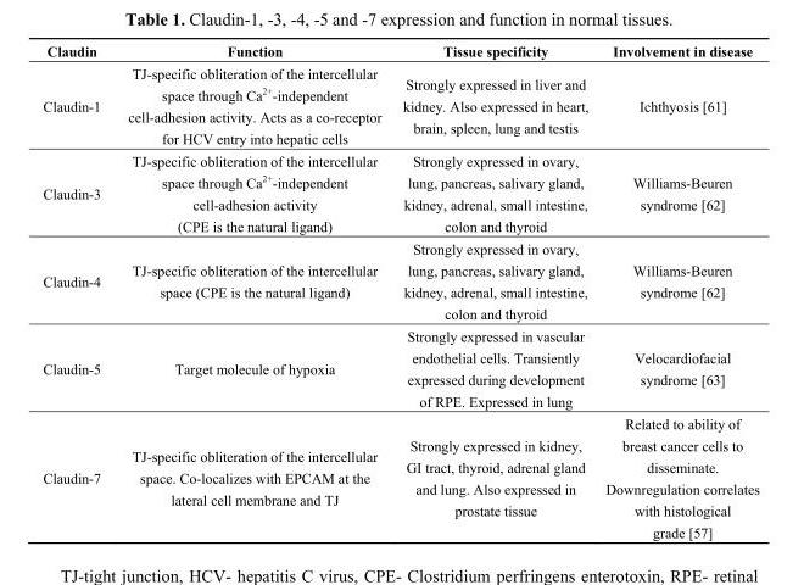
<table><thead><tr><td>Claudin</td><td>Function</td><td>Tissue specificity</td><td>Involvement in disease</td></tr></thead><tbody><tr><td>Claudin-1</td><td>TJ-specific obliteration of the intercellular space through Ca<sup>2+</sup>-independent cell-adhesion activity. Acts as a co-receptor for HCV entry into hepatic cells</td><td>Strongly expressed in liver and kidney. Also expressed in heart, brain, spleen, lung and testis</td><td>Ichthyosis [61]</td></tr><tr><td>Claudin-3</td><td>TJ-specific obliteration of the intercellular space through Ca<sup>2+</sup>-independent cell-adhesion activity (CPE is the natural ligand)</td><td>Strongly expressed in ovary, lung, pancreas, salivary gland, kidney, adrenal, small intestine, colon and thyroid</td><td>Williams-Beuren syndrome [62]</td></tr><tr><td>Claudin-4</td><td>TJ-specific obliteration of the intercellular space (CPE is the natural ligand)</td><td>Strongly expressed in ovary, lung, pancreas, salivary gland, kidney, adrenal, small intestine, colon and thyroid</td><td>Williams-Beuren syndrome [62]</td></tr><tr><td>Claudin-5</td><td>Target molecule of hypoxia</td><td>Strongly expressed in vascular endothelial cells. Transiently expressed during development of RPE. Expressed in lung</td><td>Velocardiofacial syndrome [63]</td></tr><tr><td>Claudin-7</td><td>TJ-specific obliteration of the intercellular space. Co-localizes with EPCAM at the lateral cell membrane and TJ</td><td>Strongly expressed in kidney, GI tract, thyroid, adrenal gland and lung. Also expressed in prostate tissue</td><td>Related to ability of breast cancer cells to disseminate. Downregulation correlates with histological grade [57]</td></tr></tbody></table>